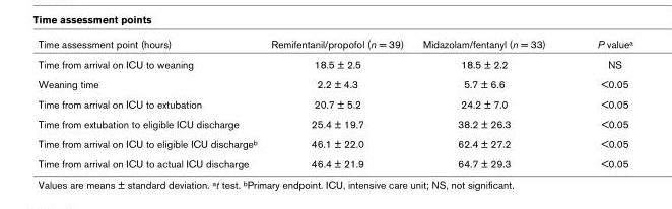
<table><thead><tr><td>Time assessment point (hours)</td><td>Remifentanil/propofol (n = 39)</td><td>Midazolam/fentanyl (n = 33)</td><td>P valuea</td></tr></thead><tbody><tr><td>Time from arrival on ICU to weaning</td><td>18.5 ± 2.5</td><td>18.5 ± 2.2</td><td>NS</td></tr><tr><td>Weaning time</td><td>2.2 ± 4.3</td><td>5.7 ± 6.6</td><td>&lt;0.05</td></tr><tr><td>Time from arrival on ICU to extubation</td><td>20.7 ± 5.2</td><td>24.2 ± 7.0</td><td>&lt;0.05</td></tr><tr><td>Time from extubation to eligible ICU discharge</td><td>25.4 ± 19.7</td><td>38.2 ± 26.3</td><td>&lt;0.05</td></tr><tr><td>Time from arrival on ICU to eligible ICU dischargeb</td><td>46.1 ± 22.0</td><td>62.4 ± 27.2</td><td>&lt;0.05</td></tr><tr><td>Time from arrival on ICU to actual ICU discharge</td><td>46.4 ± 21.9</td><td>64.7 ± 29.3</td><td>&lt;0.05</td></tr></tbody></table>